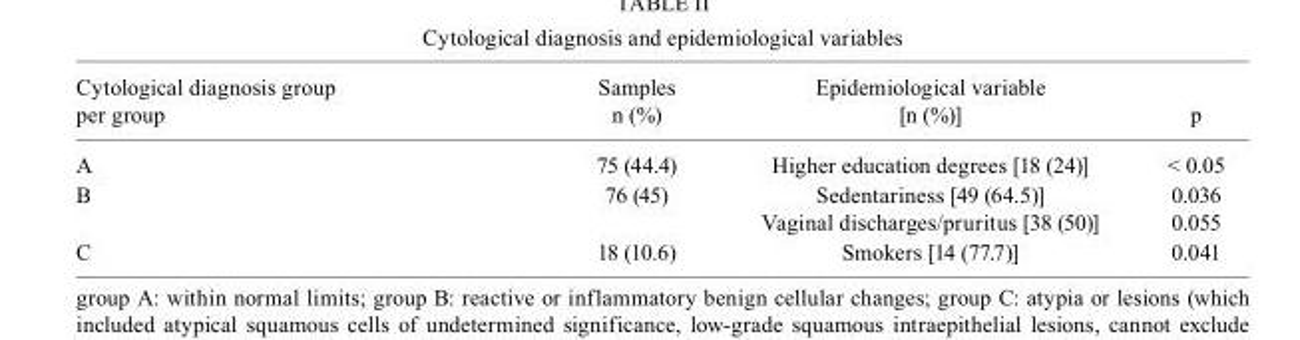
<table><thead><tr><td>Cytological diagnosis group per group</td><td>Samples n (%)</td><td>Epidemiological variable [n (%)]</td><td>p</td></tr></thead><tbody><tr><td>A</td><td>75 (44.4)</td><td>Higher education degrees [18 (24)]</td><td>&lt; 0.05</td></tr><tr><td>B</td><td>76 (45)</td><td>Sedentariness [49 (64.5)] Vaginal discharges/pruritus [38 (50)]</td><td>0.036 0.055</td></tr><tr><td>C</td><td>18 (10.6)</td><td>Smokers [14 (77.7)]</td><td>0.041</td></tr></tbody></table>